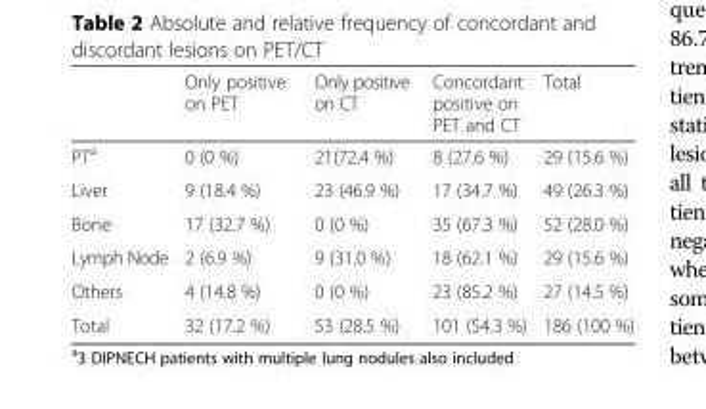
<table><thead><tr><td></td><td>Only positive on PET</td><td>Only positive on CT</td><td>Concordant positive on PET and CT</td><td>Total</td></tr></thead><tbody><tr><td>PT<sup>a</sup></td><td>0 (0 %)</td><td>21(72.4 %)</td><td>8 (27.6 %)</td><td>29 (15.6 %)</td></tr><tr><td>Liver</td><td>9 (18.4 %)</td><td>23 (46.9 %)</td><td>17 (34.7 %)</td><td>49 (26.3 %)</td></tr><tr><td>Bone</td><td>17 (32.7 %)</td><td>0 (0 %)</td><td>35 (67.3 %)</td><td>52 (28.0 %)</td></tr><tr><td>Lymph Node</td><td>2 (6.9 %)</td><td>9 (31.0 %)</td><td>18 (62.1 %)</td><td>29 (15.6 %)</td></tr><tr><td>Others</td><td>4 (14.8 %)</td><td>0 (0 %)</td><td>23 (85.2 %)</td><td>27 (14.5 %)</td></tr><tr><td>Total</td><td>32 (17.2 %)</td><td>53 (28.5 %)</td><td>101 (54.3 %)</td><td>186 (100 %)</td></tr></tbody></table>